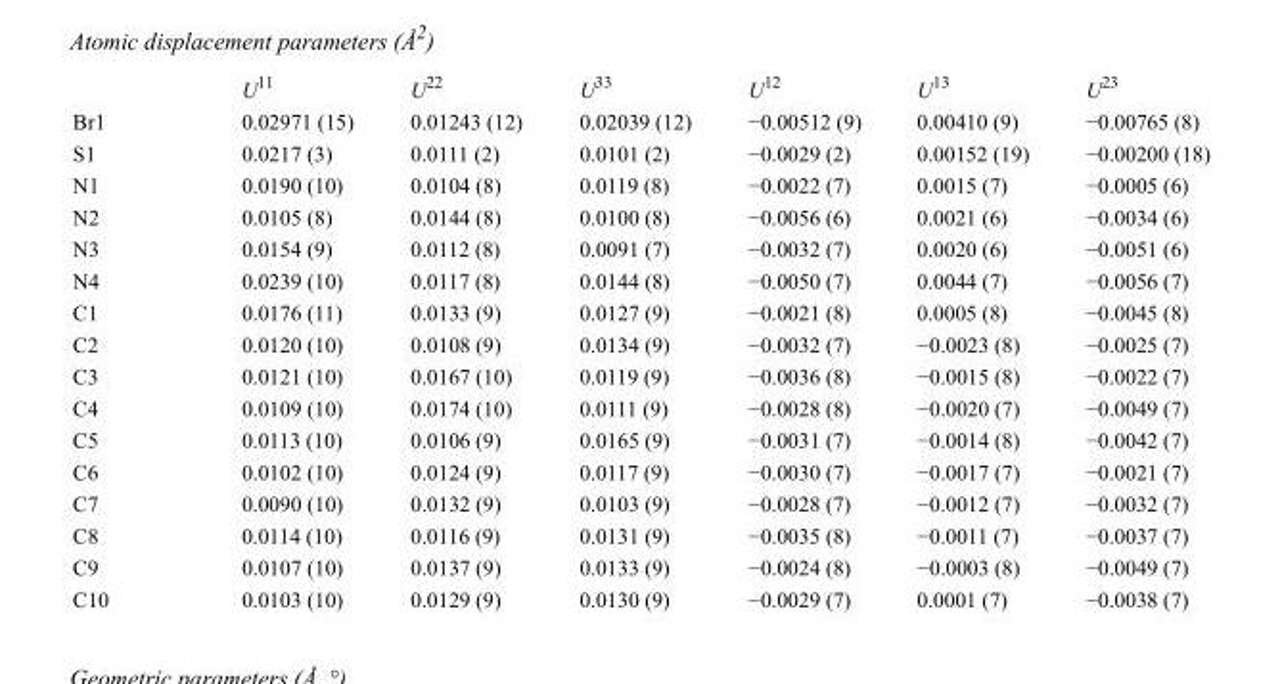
<table><thead><tr><td></td><td>U<sup>11</sup></td><td>U<sup>22</sup></td><td>U<sup>33</sup></td><td>U<sup>12</sup></td><td>U<sup>13</sup></td><td>U<sup>23</sup></td></tr></thead><tbody><tr><td>Br1</td><td>0.02971 (15)</td><td>0.01243 (12)</td><td>0.02039 (12)</td><td>−0.00512 (9)</td><td>0.00410 (9)</td><td>−0.00765 (8)</td></tr><tr><td>S1</td><td>0.0217 (3)</td><td>0.0111 (2)</td><td>0.0101 (2)</td><td>−0.0029 (2)</td><td>0.00152 (19)</td><td>−0.00200 (18)</td></tr><tr><td>N1</td><td>0.0190 (10)</td><td>0.0104 (8)</td><td>0.0119 (8)</td><td>−0.0022 (7)</td><td>0.0015 (7)</td><td>−0.0005 (6)</td></tr><tr><td>N2</td><td>0.0105 (8)</td><td>0.0144 (8)</td><td>0.0100 (8)</td><td>−0.0056 (6)</td><td>0.0021 (6)</td><td>−0.0034 (6)</td></tr><tr><td>N3</td><td>0.0154 (9)</td><td>0.0112 (8)</td><td>0.0091 (7)</td><td>−0.0032 (7)</td><td>0.0020 (6)</td><td>−0.0051 (6)</td></tr><tr><td>N4</td><td>0.0239 (10)</td><td>0.0117 (8)</td><td>0.0144 (8)</td><td>−0.0050 (7)</td><td>0.0044 (7)</td><td>−0.0056 (7)</td></tr><tr><td>C1</td><td>0.0176 (11)</td><td>0.0133 (9)</td><td>0.0127 (9)</td><td>−0.0021 (8)</td><td>0.0005 (8)</td><td>−0.0045 (8)</td></tr><tr><td>C2</td><td>0.0120 (10)</td><td>0.0108 (9)</td><td>0.0134 (9)</td><td>−0.0032 (7)</td><td>−0.0023 (8)</td><td>−0.0025 (7)</td></tr><tr><td>C3</td><td>0.0121 (10)</td><td>0.0167 (10)</td><td>0.0119 (9)</td><td>−0.0036 (8)</td><td>−0.0015 (8)</td><td>−0.0022 (7)</td></tr><tr><td>C4</td><td>0.0109 (10)</td><td>0.0174 (10)</td><td>0.0111 (9)</td><td>−0.0028 (8)</td><td>−0.0020 (7)</td><td>−0.0049 (7)</td></tr><tr><td>C5</td><td>0.0113 (10)</td><td>0.0106 (9)</td><td>0.0165 (9)</td><td>−0.0031 (7)</td><td>−0.0014 (8)</td><td>−0.0042 (7)</td></tr><tr><td>C6</td><td>0.0102 (10)</td><td>0.0124 (9)</td><td>0.0117 (9)</td><td>−0.0030 (7)</td><td>−0.0017 (7)</td><td>−0.0021 (7)</td></tr><tr><td>C7</td><td>0.0090 (10)</td><td>0.0132 (9)</td><td>0.0103 (9)</td><td>−0.0028 (7)</td><td>−0.0012 (7)</td><td>−0.0032 (7)</td></tr><tr><td>C8</td><td>0.0114 (10)</td><td>0.0116 (9)</td><td>0.0131 (9)</td><td>−0.0035 (8)</td><td>−0.0011 (7)</td><td>−0.0037 (7)</td></tr><tr><td>C9</td><td>0.0107 (10)</td><td>0.0137 (9)</td><td>0.0133 (9)</td><td>−0.0024 (8)</td><td>−0.0003 (8)</td><td>−0.0049 (7)</td></tr><tr><td>C10</td><td>0.0103 (10)</td><td>0.0129 (9)</td><td>0.0130 (9)</td><td>−0.0029 (7)</td><td>0.0001 (7)</td><td>−0.0038 (7)</td></tr></tbody></table>